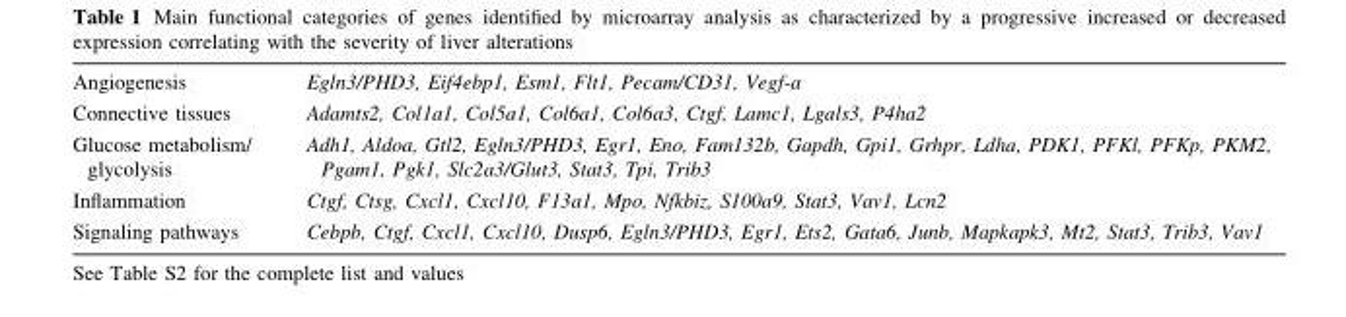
<table><tbody><tr><td>Angiogenesis</td><td>Egln3/PHD3, Eif4ebp1, Esm1, Flt1, Pecam/CD31, Vegf-a</td></tr><tr><td>Connective tissues</td><td>Adamts2, Col1a1, Col5a1, Col6a1, Col6a3, Ctgf, Lamc1, Lgals3, P4ha2</td></tr><tr><td>Glucose metabolism/ glycolysis</td><td>Adh1, Aldoa, Gtl2, Egln3/PHD3, Egr1, Eno, Fam132b, Gapdh, Gpi1, Grhpr, Ldha, PDK1, PFKl, PFKp, PKM2, Pgam1, Pgk1, Slc2a3/Glut3, Stat3, Tpi, Trib3</td></tr><tr><td>Inflammation</td><td>Ctgf, Ctsg, Cxcl1, Cxcl10, F13a1, Mpo, Nfkbiz, S100a9, Stat3, Vav1, Lcn2</td></tr><tr><td>Signaling pathways</td><td>Cebpb, Ctgf, Cxcl1, Cxcl10, Dusp6, Egln3/PHD3, Egr1, Ets2, Gata6, Junb, Mapkapk3, Mt2, Stat3, Trib3, Vav1</td></tr></tbody></table>